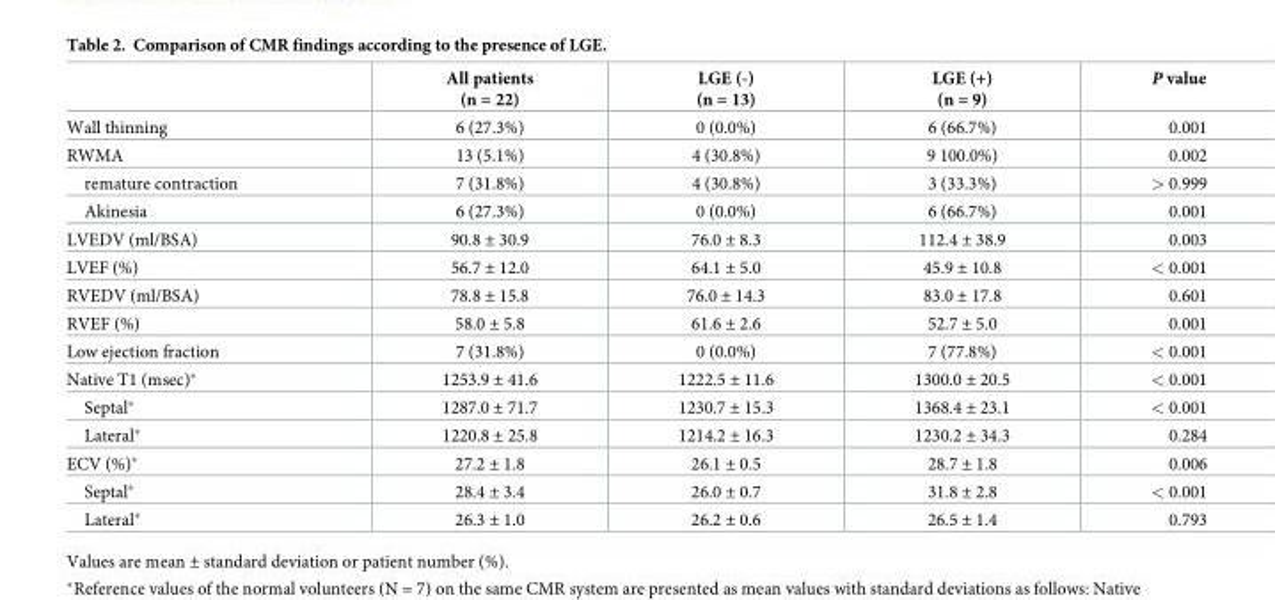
<table><thead><tr><td></td><td>All patients (n = 22)</td><td>LGE (-) (n = 13)</td><td>LGE (+) (n = 9)</td><td>P value</td></tr></thead><tbody><tr><td>Wall thinning</td><td>6 (27.3%)</td><td>0 (0.0%)</td><td>6 (66.7%)</td><td>0.001</td></tr><tr><td>RWMA</td><td>13 (5.1%)</td><td>4 (30.8%)</td><td>9 100.0%)</td><td>0.002</td></tr><tr><td>remature contraction</td><td>7 (31.8%)</td><td>4 (30.8%)</td><td>3 (33.3%)</td><td>&gt; 0.999</td></tr><tr><td>Akinesia</td><td>6 (27.3%)</td><td>0 (0.0%)</td><td>6 (66.7%)</td><td>0.001</td></tr><tr><td>LVEDV (ml/BSA)</td><td>90.8 ± 30.9</td><td>76.0 ± 8.3</td><td>112.4 ± 38.9</td><td>0.003</td></tr><tr><td>LVEF (%)</td><td>56.7 ± 12.0</td><td>64.1 ± 5.0</td><td>45.9 ± 10.8</td><td>&lt; 0.001</td></tr><tr><td>RVEDV (ml/BSA)</td><td>78.8 ± 15.8</td><td>76.0 ± 14.3</td><td>83.0 ± 17.8</td><td>0.601</td></tr><tr><td>RVEF (%)</td><td>58.0 ± 5.8</td><td>61.6 ± 2.6</td><td>52.7 ± 5.0</td><td>0.001</td></tr><tr><td>Low ejection fraction</td><td>7 (31.8%)</td><td>0 (0.0%)</td><td>7 (77.8%)</td><td>&lt; 0.001</td></tr><tr><td>Native T1 (msec)*</td><td>1253.9 ± 41.6</td><td>1222.5 ± 11.6</td><td>1300.0 ± 20.5</td><td>&lt; 0.001</td></tr><tr><td>Septal*</td><td>1287.0 ± 71.7</td><td>1230.7 ± 15.3</td><td>1368.4 ± 23.1</td><td>&lt; 0.001</td></tr><tr><td>Lateral*</td><td>1220.8 ± 25.8</td><td>1214.2 ± 16.3</td><td>1230.2 ± 34.3</td><td>0.284</td></tr><tr><td>ECV (%)*</td><td>27.2 ± 1.8</td><td>26.1 ± 0.5</td><td>28.7 ± 1.8</td><td>0.006</td></tr><tr><td>Septal*</td><td>28.4 ± 3.4</td><td>26.0 ± 0.7</td><td>31.8 ± 2.8</td><td>&lt; 0.001</td></tr><tr><td>Lateral*</td><td>26.3 ± 1.0</td><td>26.2 ± 0.6</td><td>26.5 ± 1.4</td><td>0.793</td></tr></tbody></table>